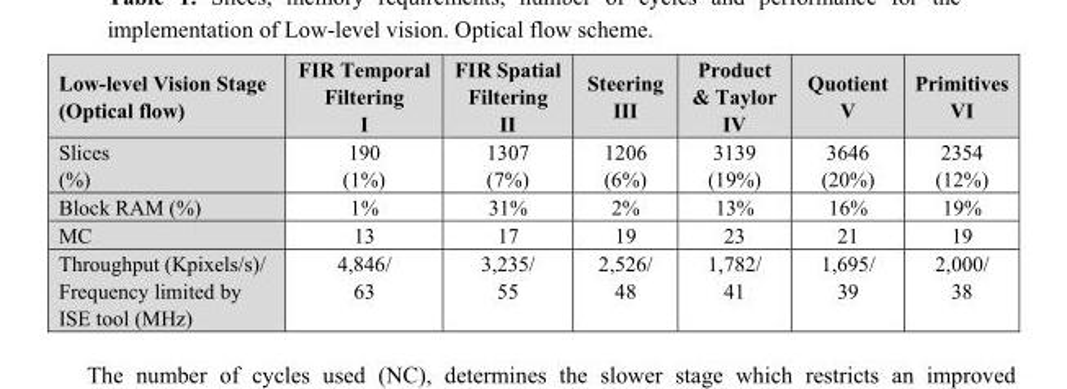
<table><thead><tr><td>Low-level Vision Stage (Optical flow)</td><td>FIR Temporal Filtering I</td><td>FIR Spatial Filtering II</td><td>Steering III</td><td>Product &amp; Taylor IV</td><td>Quotient V</td><td>Primitives VI</td></tr></thead><tbody><tr><td>Slices (%)</td><td>190 (1%)</td><td>1307 (7%)</td><td>1206 (6%)</td><td>3139 (19%)</td><td>3646 (20%)</td><td>2354 (12%)</td></tr><tr><td>Block RAM (%)</td><td>1%</td><td>31%</td><td>2%</td><td>13%</td><td>16%</td><td>19%</td></tr><tr><td>MC</td><td>13</td><td>17</td><td>19</td><td>23</td><td>21</td><td>19</td></tr><tr><td>Throughput (Kpixels/s)/ Frequency limited by ISE tool (MHz)</td><td>4,846/ 63</td><td>3,235/ 55</td><td>2,526/ 48</td><td>1,782/ 41</td><td>1,695/ 39</td><td>2,000/ 38</td></tr></tbody></table>